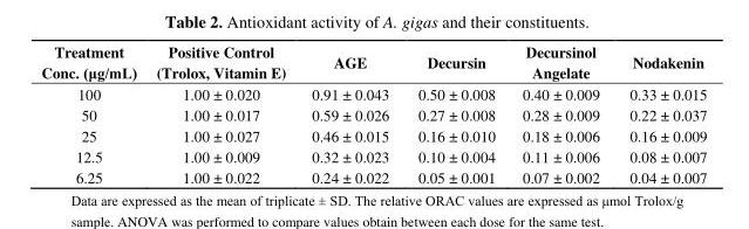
<table><thead><tr><td>Treatment Conc. (μg/mL)</td><td>Positive Control (Trolox, Vitamin E)</td><td>AGE</td><td>Decursin</td><td>Decursinol Angelate</td><td>Nodakenin</td></tr></thead><tbody><tr><td>100</td><td>1.00 ± 0.020</td><td>0.91 ± 0.043</td><td>0.50 ± 0.008</td><td>0.40 ± 0.009</td><td>0.33 ± 0.015</td></tr><tr><td>50</td><td>1.00 ± 0.017</td><td>0.59 ± 0.026</td><td>0.27 ± 0.008</td><td>0.28 ± 0.009</td><td>0.22 ± 0.037</td></tr><tr><td>25</td><td>1.00 ± 0.027</td><td>0.46 ± 0.015</td><td>0.16 ± 0.010</td><td>0.18 ± 0.006</td><td>0.16 ± 0.009</td></tr><tr><td>12.5</td><td>1.00 ± 0.009</td><td>0.32 ± 0.023</td><td>0.10 ± 0.004</td><td>0.11 ± 0.006</td><td>0.08 ± 0.007</td></tr><tr><td>6.25</td><td>1.00 ± 0.022</td><td>0.24 ± 0.022</td><td>0.05 ± 0.001</td><td>0.07 ± 0.002</td><td>0.04 ± 0.007</td></tr></tbody></table>